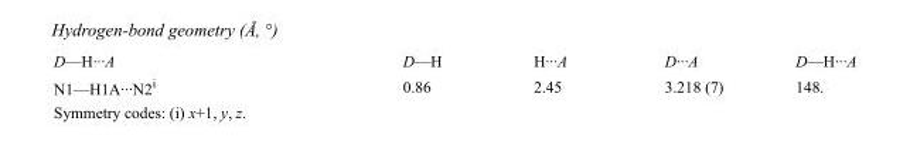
<table><tbody><tr><td>D—H···A</td><td>D—H</td><td>H···A</td><td>D···A</td><td>D—H···A</td></tr><tr><td>N1—H1A···N2<sup>i</sup></td><td>0.86</td><td>2.45</td><td>3.218 (7)</td><td>148.</td></tr></tbody></table>